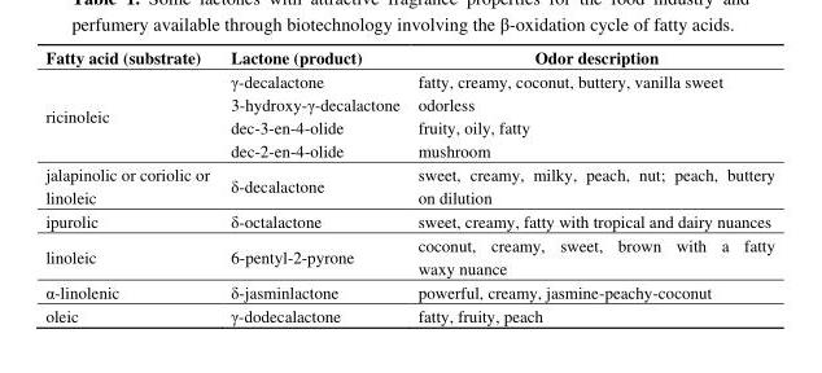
<table><thead><tr><td>Fatty acid (substrate)</td><td>Lactone (product)</td><td>Odor description</td></tr></thead><tbody><tr><td rowspan="4">ricinoleic</td><td>γ-decalactone</td><td>fatty, creamy, coconut, buttery, vanilla sweet</td></tr><tr><td>3-hydroxy-γ-decalactone</td><td>odorless</td></tr><tr><td>dec-3-en-4-olide</td><td>fruity, oily, fatty</td></tr><tr><td>dec-2-en-4-olide</td><td>mushroom</td></tr><tr><td>jalapinolic or coriolic or linoleic</td><td>δ-decalactone</td><td>sweet, creamy, milky, peach, nut; peach, buttery on dilution</td></tr><tr><td>ipurolic</td><td>δ-octalactone</td><td>sweet, creamy, fatty with tropical and dairy nuances</td></tr><tr><td>linoleic</td><td>6-pentyl-2-pyrone</td><td>coconut, creamy, sweet, brown with a fatty waxy nuance</td></tr><tr><td>α-linolenic</td><td>δ-jasminlactone</td><td>powerful, creamy, jasmine-peachy-coconut</td></tr><tr><td>oleic</td><td>γ-dodecalactone</td><td>fatty, fruity, peach</td></tr></tbody></table>